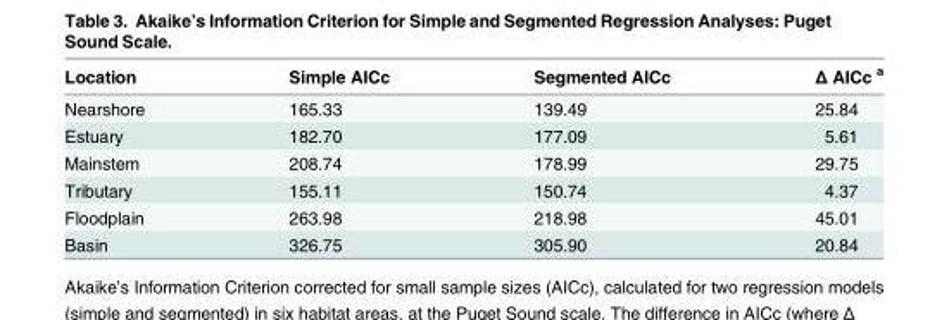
<table><thead><tr><td>Location</td><td>Simple AICc</td><td>Segmented AICc</td><td>Δ AICc <sup>a</sup></td></tr></thead><tbody><tr><td>Nearshore</td><td>165.33</td><td>139.49</td><td>25.84</td></tr><tr><td>Estuary</td><td>182.70</td><td>177.09</td><td>5.61</td></tr><tr><td>Mainstem</td><td>208.74</td><td>178.99</td><td>29.75</td></tr><tr><td>Tributary</td><td>155.11</td><td>150.74</td><td>4.37</td></tr><tr><td>Floodplain</td><td>263.98</td><td>218.98</td><td>45.01</td></tr><tr><td>Basin</td><td>326.75</td><td>305.90</td><td>20.84</td></tr></tbody></table>